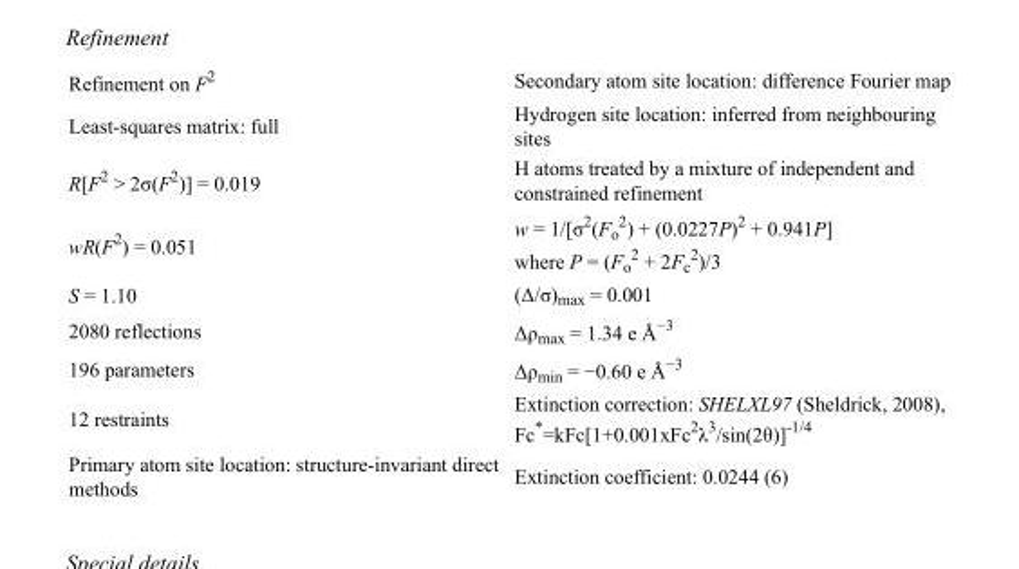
<table><tbody><tr><td>Refinement on F<sup>2</sup></td><td>Secondary atom site location: difference Fourier map</td></tr><tr><td>Least-squares matrix: full</td><td>Hydrogen site location: inferred from neighbouring sites</td></tr><tr><td>R[F<sup>2</sup> &gt; 2σ(F<sup>2</sup>)] = 0.019</td><td>H atoms treated by a mixture of independent and constrained refinement</td></tr><tr><td>wR(F<sup>2</sup>) = 0.051</td><td>w = 1/[σ<sup>2</sup>(F<sub>o</sub> <sup>2</sup>) + (0.0227P)<sup>2</sup> + 0.941P] where P = (F<sub>o</sub> <sup>2</sup> + 2F<sub>c</sub> <sup>2</sup>)/3</td></tr><tr><td>S = 1.10</td><td>(Δ/σ)<sub>max</sub> = 0.001</td></tr><tr><td>2080 reflections</td><td>Δρ<sub>max</sub> = 1.34 e Å<sup>−3</sup></td></tr><tr><td>196 parameters</td><td>Δρ<sub>min</sub> = −0.60 e Å<sup>−3</sup></td></tr><tr><td>12 restraints</td><td>Extinction correction: SHELXL97 (Sheldrick, 2008), Fc*=kFc[1+0.001xFc<sup>2</sup>λ<sup>3</sup>/sin(2θ)]<sup>-1/4</sup></td></tr><tr><td>Primary atom site location: structure-invariant direct methods</td><td>Extinction coefficient: 0.0244 (6)</td></tr></tbody></table>